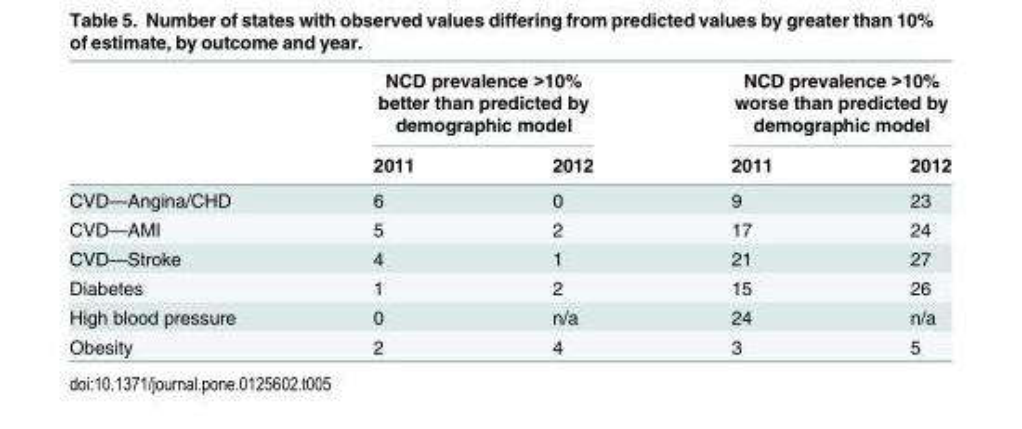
<table><thead><tr><td rowspan="2"></td><td colspan="2">NCD prevalence &gt;10% better than predicted by demographic model</td><td colspan="2">NCD prevalence &gt;10% worse than predicted by demographic model</td></tr><tr><td>2011</td><td>2012</td><td>2011</td><td>2012</td></tr></thead><tbody><tr><td>CVD—Angina/CHD</td><td>6</td><td>0</td><td>9</td><td>23</td></tr><tr><td>CVD—AMI</td><td>5</td><td>2</td><td>17</td><td>24</td></tr><tr><td>CVD—Stroke</td><td>4</td><td>1</td><td>21</td><td>27</td></tr><tr><td>Diabetes</td><td>1</td><td>2</td><td>15</td><td>26</td></tr><tr><td>High blood pressure</td><td>0</td><td>n/a</td><td>24</td><td>n/a</td></tr><tr><td>Obesity</td><td>2</td><td>4</td><td>3</td><td>5</td></tr></tbody></table>